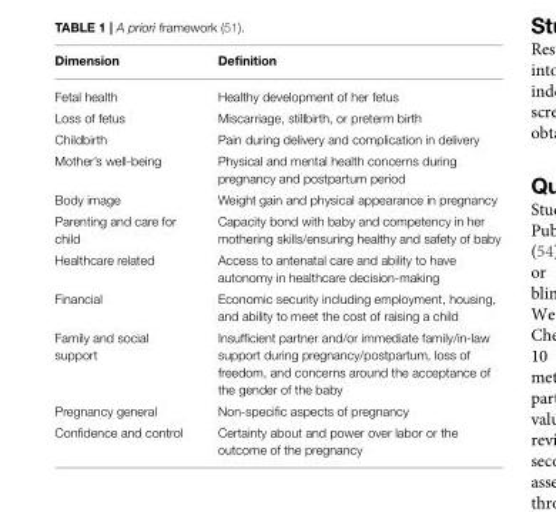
<table><thead><tr><td>Dimension</td><td>Definition</td></tr></thead><tbody><tr><td>Fetal health</td><td>Healthy development of her fetus</td></tr><tr><td>Loss of fetus</td><td>Miscarriage, stillbirth, or preterm birth</td></tr><tr><td>Childbirth</td><td>Pain during delivery and complication in delivery</td></tr><tr><td>Mother’s well-being</td><td>Physical and mental health concerns during pregnancy and postpartum period</td></tr><tr><td>Body image</td><td>Weight gain and physical appearance in pregnancy</td></tr><tr><td>Parenting and care for child</td><td>Capacity bond with baby and competency in her mothering skills/ensuring healthy and safety of baby</td></tr><tr><td>Healthcare related</td><td>Access to antenatal care and ability to have autonomy in healthcare decision-making</td></tr><tr><td>Financial</td><td>Economic security including employment, housing, and ability to meet the cost of raising a child</td></tr><tr><td>Family and social support</td><td>Insufficient partner and/or immediate family/in-law support during pregnancy/postpartum, loss of freedom, and concerns around the acceptance of the gender of the baby</td></tr><tr><td>Pregnancy general</td><td>Non-specific aspects of pregnancy</td></tr><tr><td>Confidence and control</td><td>Certainty about and power over labor or the outcome of the pregnancy</td></tr></tbody></table>